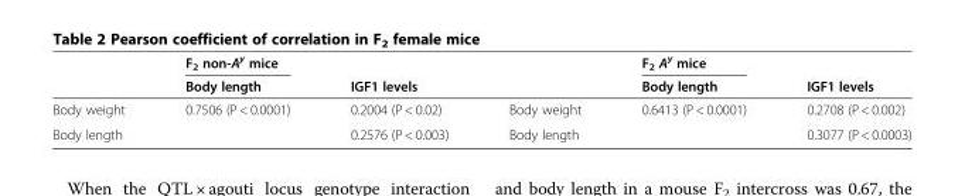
<table><thead><tr><td rowspan="2"></td><td rowspan="2">F2 non-Ay mice Body length</td><td rowspan="2">IGF1 levels</td><td rowspan="2"></td><td rowspan="2">F2 Ay mice Body length</td><td rowspan="2">IGF1 levels</td></tr><tr></tr></thead><tbody><tr><td>Body weight</td><td>0.7506 (P &lt; 0.0001)</td><td>0.2004 (P &lt; 0.02)</td><td>Body weight</td><td>0.6413 (P &lt; 0.0001)</td><td>0.2708 (P &lt; 0.002)</td></tr><tr><td>Body length</td><td></td><td>0.2576 (P &lt; 0.003)</td><td>Body length</td><td></td><td>0.3077 (P &lt; 0.0003)</td></tr></tbody></table>